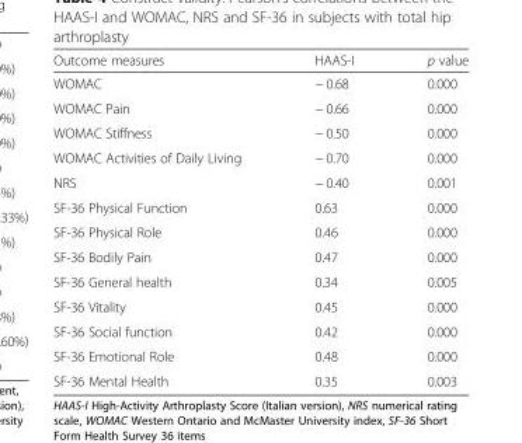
<table><thead><tr><td>Outcome measures</td><td>HAAS-I</td><td>p value</td></tr></thead><tbody><tr><td>WOMAC</td><td>− 0.68</td><td>0.000</td></tr><tr><td>WOMAC Pain</td><td>− 0.66</td><td>0.000</td></tr><tr><td>WOMAC Stiffness</td><td>− 0.50</td><td>0.000</td></tr><tr><td>WOMAC Activities of Daily Living</td><td>− 0.70</td><td>0.000</td></tr><tr><td>NRS</td><td>− 0.40</td><td>0.001</td></tr><tr><td>SF-36 Physical Function</td><td>0.63</td><td>0.000</td></tr><tr><td>SF-36 Physical Role</td><td>0.46</td><td>0.000</td></tr><tr><td>SF-36 Bodily Pain</td><td>0.47</td><td>0.000</td></tr><tr><td>SF-36 General health</td><td>0.34</td><td>0.005</td></tr><tr><td>SF-36 Vitality</td><td>0.45</td><td>0.000</td></tr><tr><td>SF-36 Social function</td><td>0.42</td><td>0.000</td></tr><tr><td>SF-36 Emotional Role</td><td>0.48</td><td>0.000</td></tr><tr><td>SF-36 Mental Health</td><td>0.35</td><td>0.003</td></tr></tbody></table>